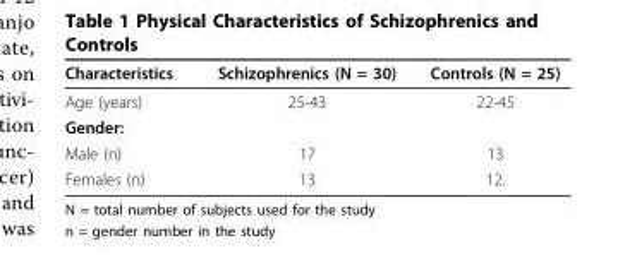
<table><thead><tr><td>Characteristics</td><td>Schizophrenics (N = 30)</td><td>Controls (N = 25)</td></tr></thead><tbody><tr><td>Age (years)</td><td>25-43</td><td>22-45</td></tr><tr><td colspan="3">Gender:</td></tr><tr><td>Male (n)</td><td>17</td><td>13</td></tr><tr><td>Females (n)</td><td>13</td><td>12.</td></tr></tbody></table>